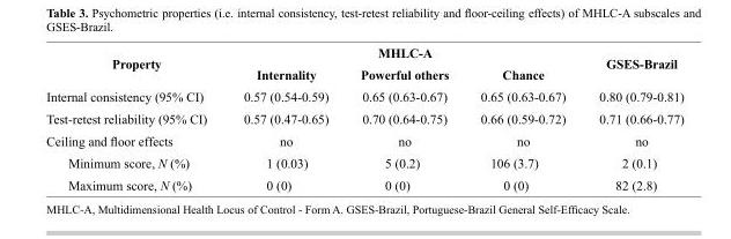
<table><thead><tr><td rowspan="2">Property</td><td colspan="3">MHLC-A</td><td rowspan="2">GSES-Brazil</td></tr><tr><td>Internality</td><td>Powerful others</td><td>Chance</td></tr></thead><tbody><tr><td>Internal consistency (95% CI)</td><td>0.57 (0.54-0.59)</td><td>0.65 (0.63-0.67)</td><td>0.65 (0.63-0.67)</td><td>0.80 (0.79-0.81)</td></tr><tr><td>Test-retest reliability (95% CI)</td><td>0.57 (0.47-0.65)</td><td>0.70 (0.64-0.75)</td><td>0.66 (0.59-0.72)</td><td>0.71 (0.66-0.77)</td></tr><tr><td>Ceiling and floor effects</td><td>no</td><td>no</td><td>no</td><td>no</td></tr><tr><td>Minimum score, N (%)</td><td>1 (0.03)</td><td>5 (0.2)</td><td>106 (3.7)</td><td>2 (0.1)</td></tr><tr><td>Maximum score, N (%)</td><td>0 (0)</td><td>0 (0)</td><td>0 (0)</td><td>82 (2.8)</td></tr></tbody></table>